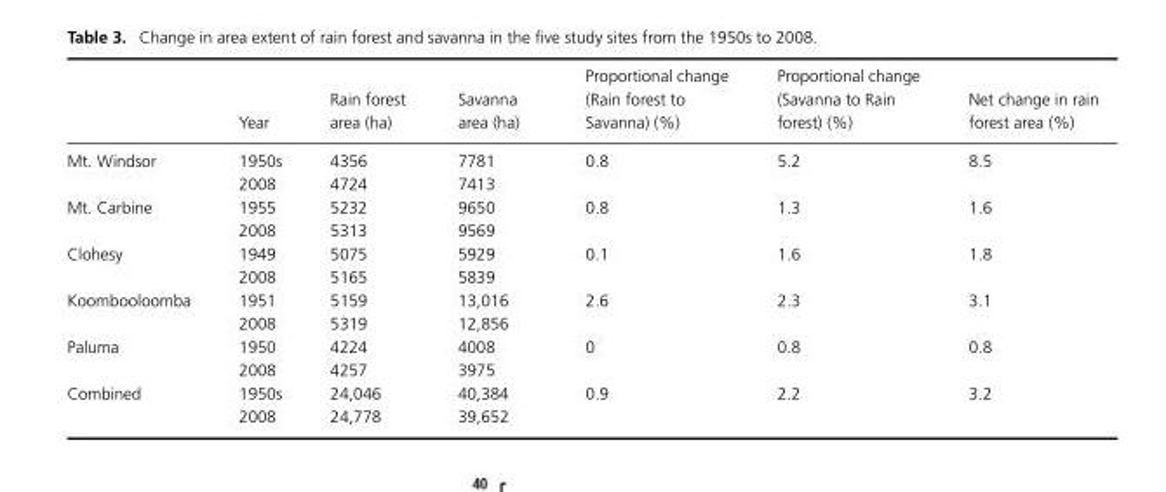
<table><thead><tr><td></td><td>Year</td><td>Rain forest area (ha)</td><td>Savanna area (ha)</td><td>Proportional change (Rain forest to Savanna) (%)</td><td>Proportional change (Savanna to Rain forest) (%)</td><td>Net change in rain forest area (%)</td></tr></thead><tbody><tr><td rowspan="2">Mt. Windsor</td><td>1950s</td><td>4356</td><td>7781</td><td>0.8</td><td>5.2</td><td>8.5</td></tr><tr><td>2008</td><td>4724</td><td>7413</td><td></td><td></td><td></td></tr><tr><td rowspan="2">Mt. Carbine</td><td>1955</td><td>5232</td><td>9650</td><td>0.8</td><td>1.3</td><td>1.6</td></tr><tr><td>2008</td><td>5313</td><td>9569</td><td></td><td></td><td></td></tr><tr><td rowspan="2">Clohesy</td><td>1949</td><td>5075</td><td>5929</td><td>0.1</td><td>1.6</td><td>1.8</td></tr><tr><td>2008</td><td>5165</td><td>5839</td><td></td><td></td><td></td></tr><tr><td rowspan="2">Koombooloomba</td><td>1951</td><td>5159</td><td>13,016</td><td>2.6</td><td>2.3</td><td>3.1</td></tr><tr><td>2008</td><td>5319</td><td>12,856</td><td></td><td></td><td></td></tr><tr><td rowspan="2">Paluma</td><td>1950</td><td>4224</td><td>4008</td><td>0</td><td>0.8</td><td>0.8</td></tr><tr><td>2008</td><td>4257</td><td>3975</td><td></td><td></td><td></td></tr><tr><td rowspan="2">Combined</td><td>1950s</td><td>24,046</td><td>40,384</td><td>0.9</td><td>2.2</td><td>3.2</td></tr><tr><td>2008</td><td>24,778</td><td>39,652</td><td></td><td></td><td></td></tr></tbody></table>